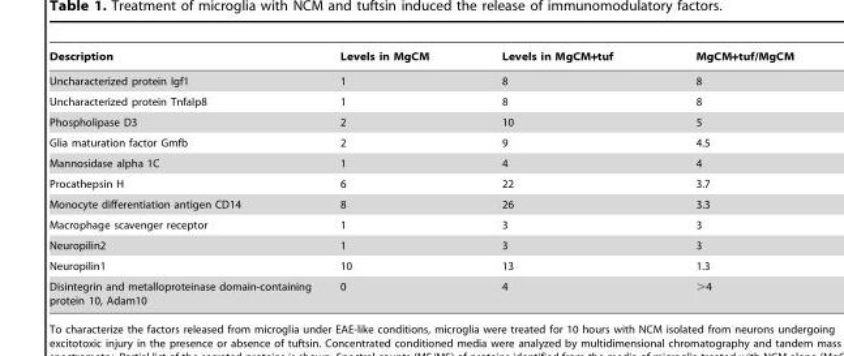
<table><thead><tr><td>Description</td><td>Levels in MgCM</td><td>Levels in MgCM+tuf</td><td>MgCM+tuf/MgCM</td></tr></thead><tbody><tr><td>Uncharacterized protein Igf1</td><td>1</td><td>8</td><td>8</td></tr><tr><td>Uncharacterized protein TnfaIp8</td><td>1</td><td>8</td><td>8</td></tr><tr><td>Phospholipase D3</td><td>2</td><td>10</td><td>5</td></tr><tr><td>Glia maturation factor Gmfb</td><td>2</td><td>9</td><td>4.5</td></tr><tr><td>Mannosidase alpha 1C</td><td>1</td><td>4</td><td>4</td></tr><tr><td>Procathepsin H</td><td>6</td><td>22</td><td>3.7</td></tr><tr><td>Monocyte differentiation antigen CD14</td><td>8</td><td>26</td><td>3.3</td></tr><tr><td>Macrophage scavenger receptor</td><td>1</td><td>3</td><td>3</td></tr><tr><td>Neuropilin2</td><td>1</td><td>3</td><td>3</td></tr><tr><td>Neuropilin1</td><td>10</td><td>13</td><td>1.3</td></tr><tr><td>Disintegrin and metalloproteinase domain-containing protein 10, Adam10</td><td>0</td><td>4</td><td>&gt;4</td></tr></tbody></table>